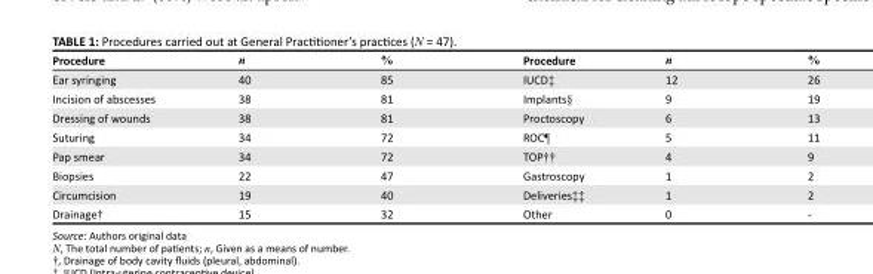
<table><thead><tr><td>Procedure</td><td>n</td><td>%</td><td>Procedure</td><td>n</td><td>%</td></tr></thead><tbody><tr><td>Ear syringing</td><td>40</td><td>85</td><td>IUCD‡</td><td>12</td><td>26</td></tr><tr><td>Incision of abscesses</td><td>38</td><td>81</td><td>Implants§</td><td>9</td><td>19</td></tr><tr><td>Dressing of wounds</td><td>38</td><td>81</td><td>Proctoscopy</td><td>6</td><td>13</td></tr><tr><td>Suturing</td><td>34</td><td>72</td><td>ROC¶</td><td>5</td><td>11</td></tr><tr><td>Pap smear</td><td>34</td><td>72</td><td>TOP††</td><td>4</td><td>9</td></tr><tr><td>Biopsies</td><td>22</td><td>47</td><td>Gastroscopy</td><td>1</td><td>2</td></tr><tr><td>Circumcision</td><td>19</td><td>40</td><td>Deliveries‡‡</td><td>1</td><td>2</td></tr><tr><td>Drainage†</td><td>15</td><td>32</td><td>Other</td><td>0</td><td>-</td></tr></tbody></table>